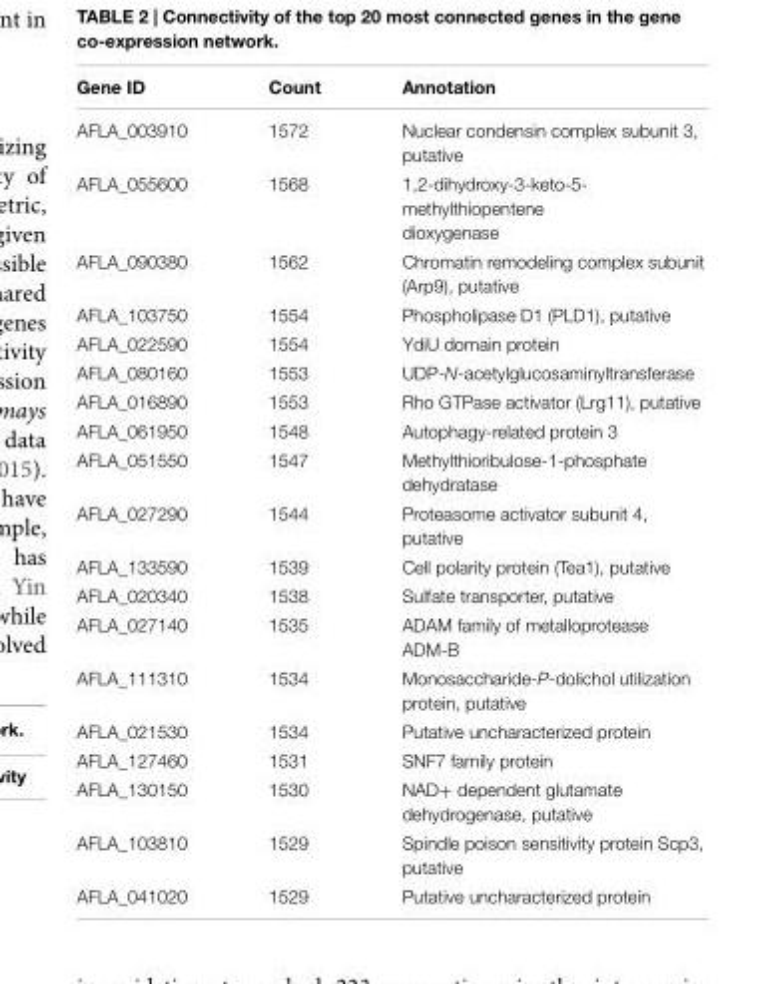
<table><thead><tr><td>Gene ID</td><td>Count</td><td>Annotation</td></tr></thead><tbody><tr><td>AFLA_003910</td><td>1572</td><td>Nuclear condensin complex subunit 3, putative</td></tr><tr><td>AFLA_055600</td><td>1568</td><td>1,2-dihydroxy-3-keto-5- methylthiopentene dioxygenase</td></tr><tr><td>AFLA_090380</td><td>1562</td><td>Chromatin remodeling complex subunit (Arp9), putative</td></tr><tr><td>AFLA_103750</td><td>1554</td><td>Phospholipase D1 (PLD1), putative</td></tr><tr><td>AFLA_022590</td><td>1554</td><td>YdiU domain protein</td></tr><tr><td>AFLA_080160</td><td>1553</td><td>UDP-N-acetylglucosaminyltransferase</td></tr><tr><td>AFLA_016890</td><td>1553</td><td>Rho GTPase activator (Lrg11), putative</td></tr><tr><td>AFLA_061950</td><td>1548</td><td>Autophagy-related protein 3</td></tr><tr><td>AFLA_051550</td><td>1547</td><td>Methylthioribulose-1-phosphate dehydratase</td></tr><tr><td>AFLA_027290</td><td>1544</td><td>Proteasome activator subunit 4, putative</td></tr><tr><td>AFLA_133590</td><td>1539</td><td>Cell polarity protein (Tea1), putative</td></tr><tr><td>AFLA_020340</td><td>1538</td><td>Sulfate transporter, putative</td></tr><tr><td>AFLA_027140</td><td>1535</td><td>ADAM family of metalloprotease ADM-B</td></tr><tr><td>AFLA_111310</td><td>1534</td><td>Monosaccharide-P-dolichol utilization protein, putative</td></tr><tr><td>AFLA_021530</td><td>1534</td><td>Putative uncharacterized protein</td></tr><tr><td>AFLA_127460</td><td>1531</td><td>SNF7 family protein</td></tr><tr><td>AFLA_130150</td><td>1530</td><td>NAD+ dependent glutamate dehydrogenase, putative</td></tr><tr><td>AFLA_103810</td><td>1529</td><td>Spindle poison sensitivity protein Scp3, putative</td></tr><tr><td>AFLA_041020</td><td>1529</td><td>Putative uncharacterized protein</td></tr></tbody></table>